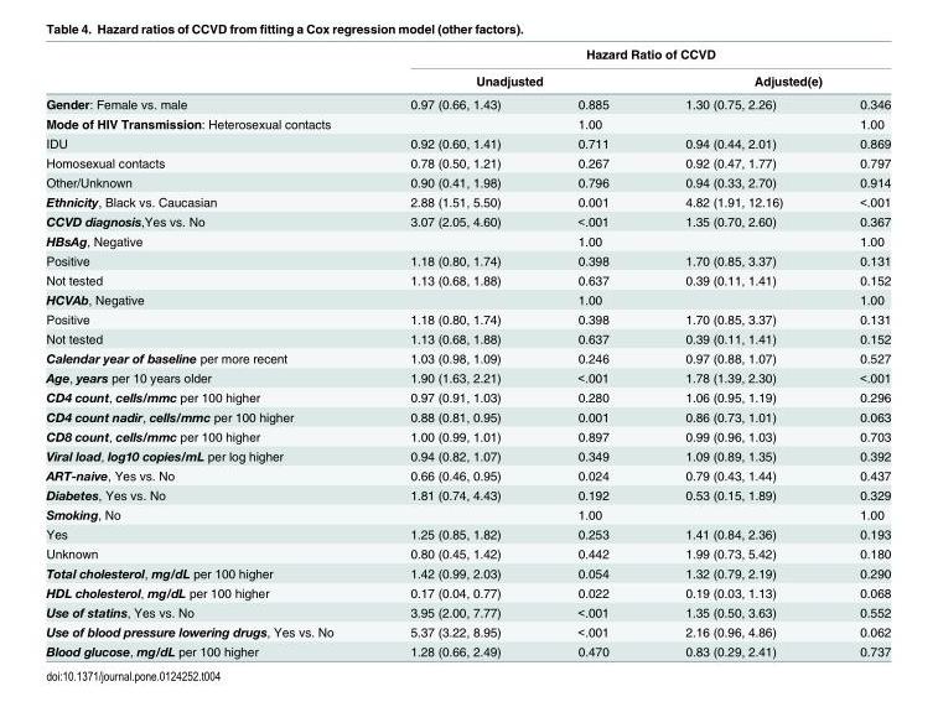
<table><thead><tr><td rowspan="3">Gender: Female vs. male</td><td colspan="4">Hazard Ratio of CCVD</td></tr><tr><td colspan="2">Unadjusted</td><td colspan="2">Adjusted(e)</td></tr><tr><td>0.97 (0.66, 1.43)</td><td>0.885</td><td>1.30 (0.75, 2.26)</td><td>0.346</td></tr></thead><tbody><tr><td>Mode of HIV Transmission: Heterosexual contacts</td><td></td><td>1.00</td><td></td><td>1.00</td></tr><tr><td>IDU</td><td>0.92 (0.60, 1.41)</td><td>0.711</td><td>0.94 (0.44, 2.01)</td><td>0.869</td></tr><tr><td>Homosexual contacts</td><td>0.78 (0.50, 1.21)</td><td>0.267</td><td>0.92 (0.47, 1.77)</td><td>0.797</td></tr><tr><td>Other/Unknown</td><td>0.90 (0.41, 1.98)</td><td>0.796</td><td>0.94 (0.33, 2.70)</td><td>0.914</td></tr><tr><td>Ethnicity, Black vs. Caucasian</td><td>2.88 (1.51, 5.50)</td><td>0.001</td><td>4.82 (1.91, 12.16)</td><td>&lt;.001</td></tr><tr><td>CCVD diagnosis,Yes vs. No</td><td>3.07 (2.05, 4.60)</td><td>&lt;.001</td><td>1.35 (0.70, 2.60)</td><td>0.367</td></tr><tr><td>HBsAg, Negative</td><td></td><td>1.00</td><td></td><td>1.00</td></tr><tr><td>Positive</td><td>1.18 (0.80, 1.74)</td><td>0.398</td><td>1.70 (0.85, 3.37)</td><td>0.131</td></tr><tr><td>Not tested</td><td>1.13 (0.68, 1.88)</td><td>0.637</td><td>0.39 (0.11, 1.41)</td><td>0.152</td></tr><tr><td>HCVAb, Negative</td><td></td><td>1.00</td><td></td><td>1.00</td></tr><tr><td>Positive</td><td>1.18 (0.80, 1.74)</td><td>0.398</td><td>1.70 (0.85, 3.37)</td><td>0.131</td></tr><tr><td>Not tested</td><td>1.13 (0.68, 1.88)</td><td>0.637</td><td>0.39 (0.11, 1.41)</td><td>0.152</td></tr><tr><td>Calendar year of baseline per more recent</td><td>1.03 (0.98, 1.09)</td><td>0.246</td><td>0.97 (0.88, 1.07)</td><td>0.527</td></tr><tr><td>Age, years per 10 years older</td><td>1.90 (1.63, 2.21)</td><td>&lt;.001</td><td>1.78 (1.39, 2.30)</td><td>&lt;.001</td></tr><tr><td>CD4 count, cells/mmc per 100 higher</td><td>0.97 (0.91, 1.03)</td><td>0.280</td><td>1.06 (0.95, 1.19)</td><td>0.296</td></tr><tr><td>CD4 count nadir, cells/mmc per 100 higher</td><td>0.88 (0.81, 0.95)</td><td>0.001</td><td>0.86 (0.73, 1.01)</td><td>0.063</td></tr><tr><td>CD8 count, cells/mmc per 100 higher</td><td>1.00 (0.99, 1.01)</td><td>0.897</td><td>0.99 (0.96, 1.03)</td><td>0.703</td></tr><tr><td>Viral load, log10 copies/mL per log higher</td><td>0.94 (0.82, 1.07)</td><td>0.349</td><td>1.09 (0.89, 1.35)</td><td>0.392</td></tr><tr><td>ART-naive, Yes vs. No</td><td>0.66 (0.46, 0.95)</td><td>0.024</td><td>0.79 (0.43, 1.44)</td><td>0.437</td></tr><tr><td>Diabetes, Yes vs. No</td><td>1.81 (0.74, 4.43)</td><td>0.192</td><td>0.53 (0.15, 1.89)</td><td>0.329</td></tr><tr><td>Smoking, No</td><td></td><td>1.00</td><td></td><td>1.00</td></tr><tr><td>Yes</td><td>1.25 (0.85, 1.82)</td><td>0.253</td><td>1.41 (0.84, 2.36)</td><td>0.193</td></tr><tr><td>Unknown</td><td>0.80 (0.45, 1.42)</td><td>0.442</td><td>1.99 (0.73, 5.42)</td><td>0.180</td></tr><tr><td>Total cholesterol, mg/dL per 100 higher</td><td>1.42 (0.99, 2.03)</td><td>0.054</td><td>1.32 (0.79, 2.19)</td><td>0.290</td></tr><tr><td>HDL cholesterol, mg/dL per 100 higher</td><td>0.17 (0.04, 0.77)</td><td>0.022</td><td>0.19 (0.03, 1.13)</td><td>0.068</td></tr><tr><td>Use of statins, Yes vs. No</td><td>3.95 (2.00, 7.77)</td><td>&lt;.001</td><td>1.35 (0.50, 3.63)</td><td>0.552</td></tr><tr><td>Use of blood pressure lowering drugs, Yes vs. No</td><td>5.37 (3.22, 8.95)</td><td>&lt;.001</td><td>2.16 (0.96, 4.86)</td><td>0.062</td></tr><tr><td>Blood glucose, mg/dL per 100 higher</td><td>1.28 (0.66, 2.49)</td><td>0.470</td><td>0.83 (0.29, 2.41)</td><td>0.737</td></tr></tbody></table>